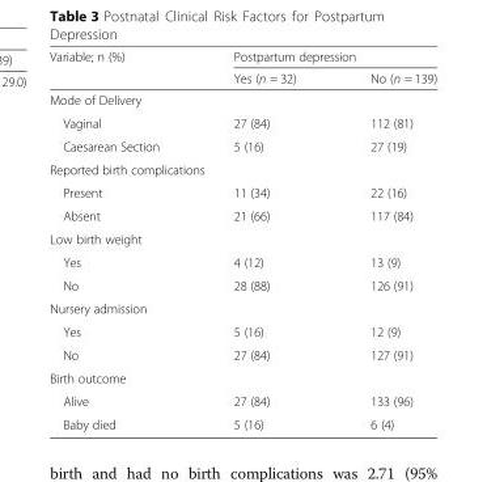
<table><thead><tr><td rowspan="2">Variable; n (%)</td><td colspan="2">Postpartum depression</td></tr><tr><td>Yes (n = 32)</td><td>No (n = 139)</td></tr></thead><tbody><tr><td colspan="3">Mode of Delivery</td></tr><tr><td>Vaginal</td><td>27 (84)</td><td>112 (81)</td></tr><tr><td>Caesarean Section</td><td>5 (16)</td><td>27 (19)</td></tr><tr><td colspan="3">Reported birth complications</td></tr><tr><td>Present</td><td>11 (34)</td><td>22 (16)</td></tr><tr><td>Absent</td><td>21 (66)</td><td>117 (84)</td></tr><tr><td colspan="3">Low birth weight</td></tr><tr><td>Yes</td><td>4 (12)</td><td>13 (9)</td></tr><tr><td>No</td><td>28 (88)</td><td>126 (91)</td></tr><tr><td colspan="3">Nursery admission</td></tr><tr><td>Yes</td><td>5 (16)</td><td>12 (9)</td></tr><tr><td>No</td><td>27 (84)</td><td>127 (91)</td></tr><tr><td colspan="3">Birth outcome</td></tr><tr><td>Alive</td><td>27 (84)</td><td>133 (96)</td></tr><tr><td>Baby died</td><td>5 (16)</td><td>6 (4)</td></tr></tbody></table>